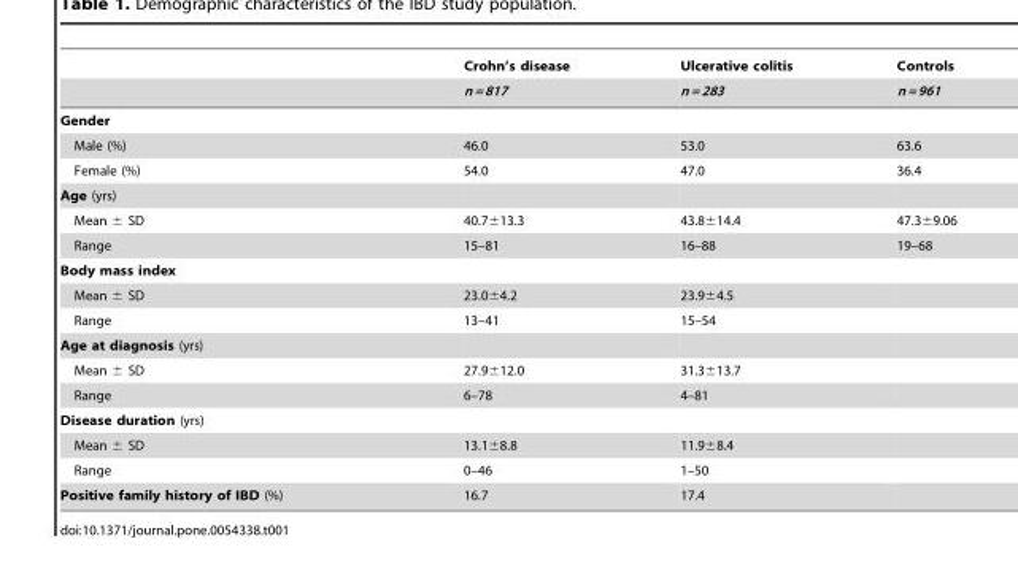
<table><thead><tr><td rowspan="2"></td><td rowspan="2">Crohn’s disease n = 817</td><td rowspan="2">Ulcerative colitis n = 283</td><td rowspan="2">Controls n = 961</td></tr><tr></tr></thead><tbody><tr><td colspan="4">Gender</td></tr><tr><td>Male (%)</td><td>46.0</td><td>53.0</td><td>63.6</td></tr><tr><td>Female (%)</td><td>54.0</td><td>47.0</td><td>36.4</td></tr><tr><td colspan="4">Age (yrs)</td></tr><tr><td>Mean ± SD</td><td>40.7±13.3</td><td>43.8±14.4</td><td>47.3±9.06</td></tr><tr><td>Range</td><td>15–81</td><td>16–88</td><td>19–68</td></tr><tr><td colspan="4">Body mass index</td></tr><tr><td>Mean ± SD</td><td>23.0±4.2</td><td>23.9±4.5</td><td></td></tr><tr><td>Range</td><td>13–41</td><td>15–54</td><td></td></tr><tr><td colspan="4">Age at diagnosis (yrs)</td></tr><tr><td>Mean ± SD</td><td>27.9±12.0</td><td>31.3±13.7</td><td></td></tr><tr><td>Range</td><td>6–78</td><td>4–81</td><td></td></tr><tr><td colspan="4">Disease duration (yrs)</td></tr><tr><td>Mean ± SD</td><td>13.1±8.8</td><td>11.9±8.4</td><td></td></tr><tr><td>Range</td><td>0–46</td><td>1–50</td><td></td></tr><tr><td>Positive family history of IBD (%)</td><td>16.7</td><td>17.4</td><td></td></tr></tbody></table>